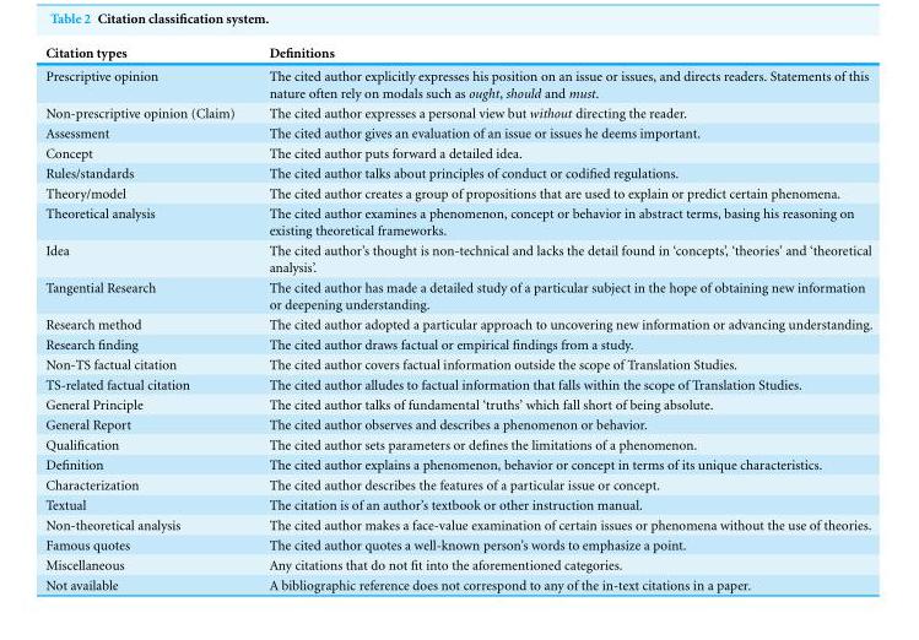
<table><thead><tr><td>Citation types</td><td>Definitions</td></tr></thead><tbody><tr><td>Prescriptive opinion</td><td>The cited author explicitly expresses his position on an issue or issues, and directs readers. Statements of this nature often rely on modals such as ought, should and must.</td></tr><tr><td>Non-prescriptive opinion (Claim)</td><td>The cited author expresses a personal view but without directing the reader.</td></tr><tr><td>Assessment</td><td>The cited author gives an evaluation of an issue or issues he deems important.</td></tr><tr><td>Concept</td><td>The cited author puts forward a detailed idea.</td></tr><tr><td>Rules/standards</td><td>The cited author talks about principles of conduct or codified regulations.</td></tr><tr><td>Theory/model</td><td>The cited author creates a group of propositions that are used to explain or predict certain phenomena.</td></tr><tr><td>Theoretical analysis</td><td>The cited author examines a phenomenon, concept or behavior in abstract terms, basing his reasoning on existing theoretical frameworks.</td></tr><tr><td>Idea</td><td>The cited author’s thought is non-technical and lacks the detail found in ‘concepts’, ‘theories’ and ‘theoretical analysis’.</td></tr><tr><td>Tangential Research</td><td>The cited author has made a detailed study of a particular subject in the hope of obtaining new information or deepening understanding.</td></tr><tr><td>Research method</td><td>The cited author adopted a particular approach to uncovering new information or advancing understanding.</td></tr><tr><td>Research finding</td><td>The cited author draws factual or empirical findings from a study.</td></tr><tr><td>Non-TS factual citation</td><td>The cited author covers factual information outside the scope of Translation Studies.</td></tr><tr><td>TS-related factual citation</td><td>The cited author alludes to factual information that falls within the scope of Translation Studies.</td></tr><tr><td>General Principle</td><td>The cited author talks of fundamental ‘truths’ which fall short of being absolute.</td></tr><tr><td>General Report</td><td>The cited author observes and describes a phenomenon or behavior.</td></tr><tr><td>Qualification</td><td>The cited author sets parameters or defines the limitations of a phenomenon.</td></tr><tr><td>Definition</td><td>The cited author explains a phenomenon, behavior or concept in terms of its unique characteristics.</td></tr><tr><td>Characterization</td><td>The cited author describes the features of a particular issue or concept.</td></tr><tr><td>Textual</td><td>The citation is of an author’s textbook or other instruction manual.</td></tr><tr><td>Non-theoretical analysis</td><td>The cited author makes a face-value examination of certain issues or phenomena without the use of theories.</td></tr><tr><td>Famous quotes</td><td>The cited author quotes a well-known person’s words to emphasize a point.</td></tr><tr><td>Miscellaneous</td><td>Any citations that do not fit into the aforementioned categories.</td></tr><tr><td>Not available</td><td>A bibliographic reference does not correspond to any of the in-text citations in a paper.</td></tr></tbody></table>